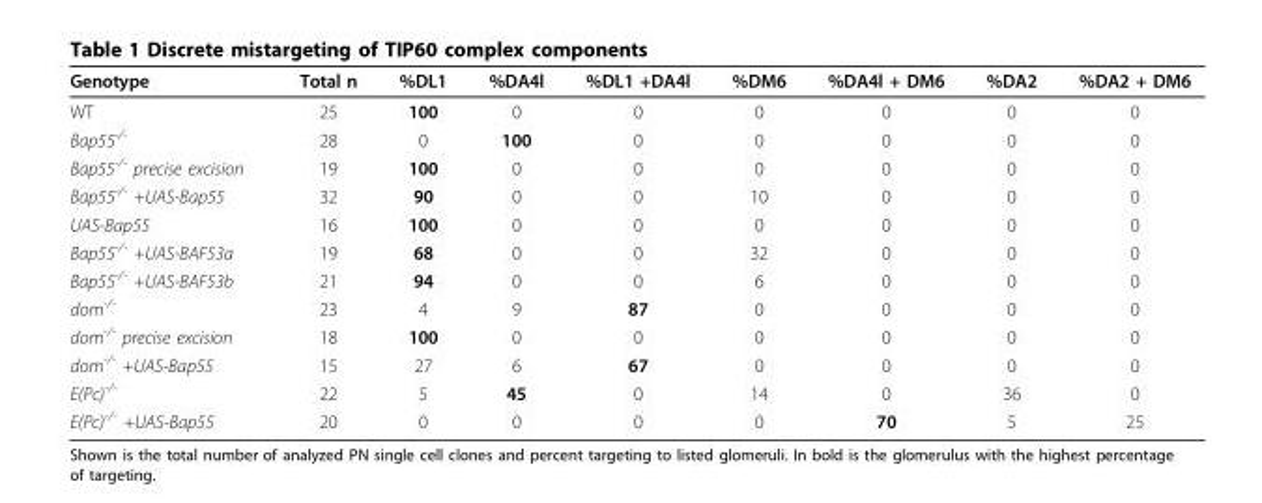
<table><thead><tr><td>Genotype</td><td>Total n</td><td>%DL1</td><td>%DA4l</td><td>%DL1 +DA4l</td><td>%DM6</td><td>%DA4l + DM6</td><td>%DA2</td><td>%DA2 + DM6</td></tr></thead><tbody><tr><td>WT</td><td>25</td><td>100</td><td>0</td><td>0</td><td>0</td><td>0</td><td>0</td><td>0</td></tr><tr><td>Bap55<sup>-/-</sup></td><td>28</td><td>0</td><td>100</td><td>0</td><td>0</td><td>0</td><td>0</td><td>0</td></tr><tr><td>Bap55<sup>-/-</sup> precise excision</td><td>19</td><td>100</td><td>0</td><td>0</td><td>0</td><td>0</td><td>0</td><td>0</td></tr><tr><td>Bap55<sup>-/-</sup> +UAS-Bap55</td><td>32</td><td>90</td><td>0</td><td>0</td><td>10</td><td>0</td><td>0</td><td>0</td></tr><tr><td>UAS-Bap55</td><td>16</td><td>100</td><td>0</td><td>0</td><td>0</td><td>0</td><td>0</td><td>0</td></tr><tr><td>Bap55<sup>-/-</sup> +UAS-BAF53a</td><td>19</td><td>68</td><td>0</td><td>0</td><td>32</td><td>0</td><td>0</td><td>0</td></tr><tr><td>Bap55<sup>-/-</sup> +UAS-BAF53b</td><td>21</td><td>94</td><td>0</td><td>0</td><td>6</td><td>0</td><td>0</td><td>0</td></tr><tr><td>dom<sup>-/-</sup></td><td>23</td><td>4</td><td>9</td><td>87</td><td>0</td><td>0</td><td>0</td><td>0</td></tr><tr><td>dom<sup>-/-</sup> precise excision</td><td>18</td><td>100</td><td>0</td><td>0</td><td>0</td><td>0</td><td>0</td><td>0</td></tr><tr><td>dom<sup>-/-</sup> +UAS-Bap55</td><td>15</td><td>27</td><td>6</td><td>67</td><td>0</td><td>0</td><td>0</td><td>0</td></tr><tr><td>E(Pc)<sup>-/-</sup></td><td>22</td><td>5</td><td>45</td><td>0</td><td>14</td><td>0</td><td>36</td><td>0</td></tr><tr><td>E(Pc)<sup>-/-</sup> +UAS-Bap55</td><td>20</td><td>0</td><td>0</td><td>0</td><td>0</td><td>70</td><td>5</td><td>25</td></tr></tbody></table>